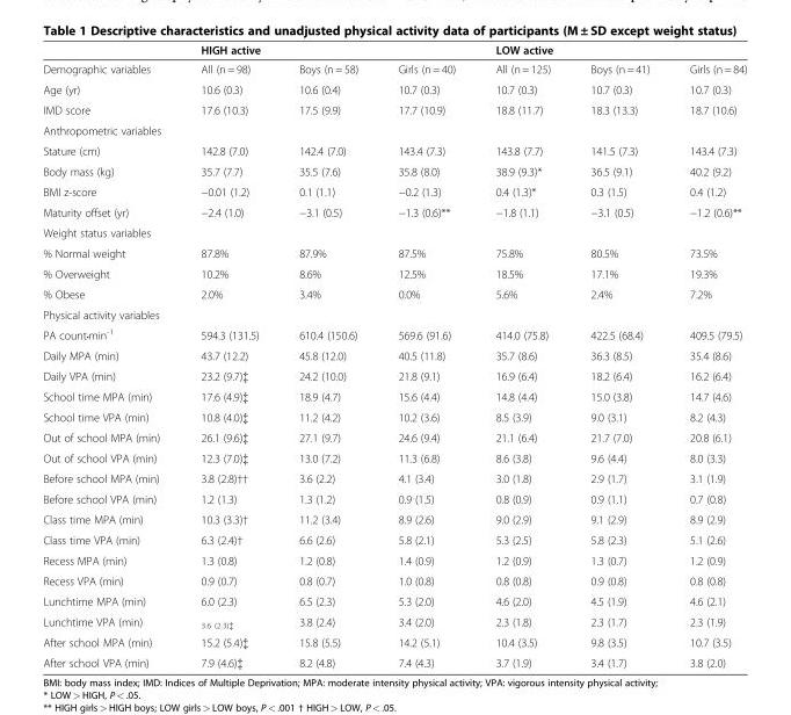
<table><thead><tr><td rowspan="2">Demographic variables</td><td colspan="3">HIGH active</td><td colspan="3">LOW active</td></tr><tr><td>All (n = 98)</td><td>Boys (n = 58)</td><td>Girls (n = 40)</td><td>All (n = 125)</td><td>Boys (n = 41)</td><td>Girls (n = 84)</td></tr></thead><tbody><tr><td>Age (yr)</td><td>10.6 (0.3)</td><td>10.6 (0.4)</td><td>10.7 (0.3)</td><td>10.7 (0.3)</td><td>10.7 (0.3)</td><td>10.7 (0.3)</td></tr><tr><td>IMD score</td><td>17.6 (10.3)</td><td>17.5 (9.9)</td><td>17.7 (10.9)</td><td>18.8 (11.7)</td><td>18.3 (13.3)</td><td>18.7 (10.6)</td></tr><tr><td colspan="7">Anthropometric variables</td></tr><tr><td>Stature (cm)</td><td>142.8 (7.0)</td><td>142.4 (7.0)</td><td>143.4 (7.3)</td><td>143.8 (7.7)</td><td>141.5 (7.3)</td><td>143.4 (7.3)</td></tr><tr><td>Body mass (kg)</td><td>35.7 (7.7)</td><td>35.5 (7.6)</td><td>35.8 (8.0)</td><td>38.9 (9.3)*</td><td>36.5 (9.1)</td><td>40.2 (9.2)</td></tr><tr><td>BMI z-score</td><td>−0.01 (1.2)</td><td>0.1 (1.1)</td><td>−0.2 (1.3)</td><td>0.4 (1.3)*</td><td>0.3 (1.5)</td><td>0.4 (1.2)</td></tr><tr><td>Maturity offset (yr)</td><td>−2.4 (1.0)</td><td>−3.1 (0.5)</td><td>−1.3 (0.6)**</td><td>−1.8 (1.1)</td><td>−3.1 (0.5)</td><td>−1.2 (0.6)**</td></tr><tr><td colspan="7">Weight status variables</td></tr><tr><td>% Normal weight</td><td>87.8%</td><td>87.9%</td><td>87.5%</td><td>75.8%</td><td>80.5%</td><td>73.5%</td></tr><tr><td>% Overweight</td><td>10.2%</td><td>8.6%</td><td>12.5%</td><td>18.5%</td><td>17.1%</td><td>19.3%</td></tr><tr><td>% Obese</td><td>2.0%</td><td>3.4%</td><td>0.0%</td><td>5.6%</td><td>2.4%</td><td>7.2%</td></tr><tr><td colspan="7">Physical activity variables</td></tr><tr><td>PA count•min-1</td><td>594.3 (131.5)</td><td>610.4 (150.6)</td><td>569.6 (91.6)</td><td>414.0 (75.8)</td><td>422.5 (68.4)</td><td>409.5 (79.5)</td></tr><tr><td>Daily MPA (min)</td><td>43.7 (12.2)</td><td>45.8 (12.0)</td><td>40.5 (11.8)</td><td>35.7 (8.6)</td><td>36.3 (8.5)</td><td>35.4 (8.6)</td></tr><tr><td>Daily VPA (min)</td><td>23.2 (9.7)‡</td><td>24.2 (10.0)</td><td>21.8 (9.1)</td><td>16.9 (6.4)</td><td>18.2 (6.4)</td><td>16.2 (6.4)</td></tr><tr><td>School time MPA (min)</td><td>17.6 (4.9)‡</td><td>18.9 (4.7)</td><td>15.6 (4.4)</td><td>14.8 (4.4)</td><td>15.0 (3.8)</td><td>14.7 (4.6)</td></tr><tr><td>School time VPA (min)</td><td>10.8 (4.0)‡</td><td>11.2 (4.2)</td><td>10.2 (3.6)</td><td>8.5 (3.9)</td><td>9.0 (3.1)</td><td>8.2 (4.3)</td></tr><tr><td>Out of school MPA (min)</td><td>26.1 (9.6)‡</td><td>27.1 (9.7)</td><td>24.6 (9.4)</td><td>21.1 (6.4)</td><td>21.7 (7.0)</td><td>20.8 (6.1)</td></tr><tr><td>Out of school VPA (min)</td><td>12.3 (7.0)‡</td><td>13.0 (7.2)</td><td>11.3 (6.8)</td><td>8.6 (3.8)</td><td>9.6 (4.4)</td><td>8.0 (3.3)</td></tr><tr><td>Before school MPA (min)</td><td>3.8 (2.8)††</td><td>3.6 (2.2)</td><td>4.1 (3.4)</td><td>3.0 (1.8)</td><td>2.9 (1.7)</td><td>3.1 (1.9)</td></tr><tr><td>Before school VPA (min)</td><td>1.2 (1.3)</td><td>1.3 (1.2)</td><td>0.9 (1.5)</td><td>0.8 (0.9)</td><td>0.9 (1.1)</td><td>0.7 (0.8)</td></tr><tr><td>Class time MPA (min)</td><td>10.3 (3.3)†</td><td>11.2 (3.4)</td><td>8.9 (2.6)</td><td>9.0 (2.9)</td><td>9.1 (2.9)</td><td>8.9 (2.9)</td></tr><tr><td>Class time VPA (min)</td><td>6.3 (2.4)†</td><td>6.6 (2.6)</td><td>5.8 (2.1)</td><td>5.3 (2.5)</td><td>5.8 (2.3)</td><td>5.1 (2.6)</td></tr><tr><td>Recess MPA (min)</td><td>1.3 (0.8)</td><td>1.2 (0.8)</td><td>1.4 (0.9)</td><td>1.2 (0.9)</td><td>1.3 (0.7)</td><td>1.2 (0.9)</td></tr><tr><td>Recess VPA (min)</td><td>0.9 (0.7)</td><td>0.8 (0.7)</td><td>1.0 (0.8)</td><td>0.8 (0.8)</td><td>0.9 (0.8)</td><td>0.8 (0.8)</td></tr><tr><td>Lunchtime MPA (min)</td><td>6.0 (2.3)</td><td>6.5 (2.3)</td><td>5.3 (2.0)</td><td>4.6 (2.0)</td><td>4.5 (1.9)</td><td>4.6 (2.1)</td></tr><tr><td>Lunchtime VPA (min)</td><td><sub>3.6 (2.3)‡</sub></td><td>3.8 (2.4)</td><td>3.4 (2.0)</td><td>2.3 (1.8)</td><td>2.3 (1.7)</td><td>2.3 (1.9)</td></tr><tr><td>After school MPA (min)</td><td>15.2 (5.4)‡</td><td>15.8 (5.5)</td><td>14.2 (5.1)</td><td>10.4 (3.5)</td><td>9.8 (3.5)</td><td>10.7 (3.5)</td></tr><tr><td>After school VPA (min)</td><td>7.9 (4.6)‡</td><td>8.2 (4.8)</td><td>7.4 (4.3)</td><td>3.7 (1.9)</td><td>3.4 (1.7)</td><td>3.8 (2.0)</td></tr></tbody></table>